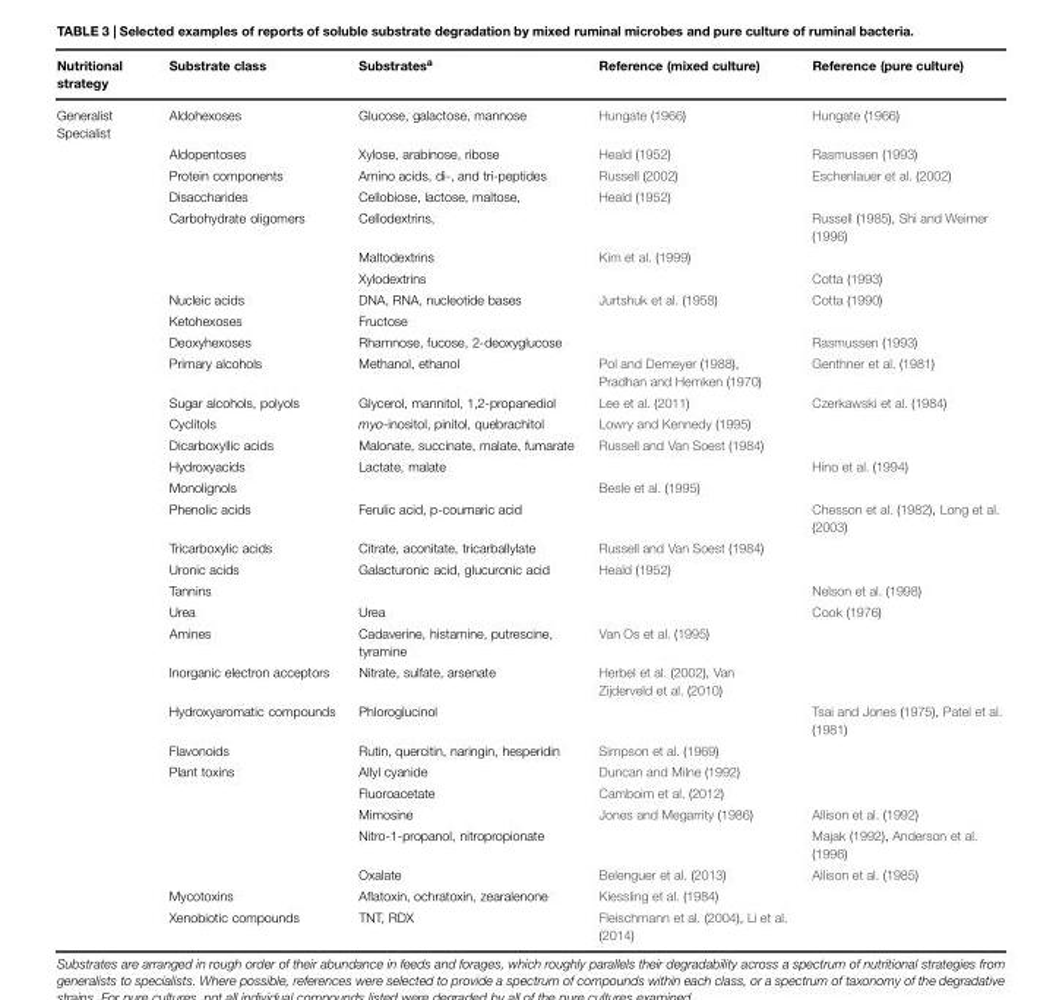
<table><thead><tr><td>Nutritional strategy</td><td>Substrate class</td><td>Substrates<sup>a</sup></td><td>Reference (mixed culture)</td><td>Reference (pure culture)</td></tr></thead><tbody><tr><td rowspan="32">Generalist Specialist</td><td>Aldohexoses</td><td>Glucose, galactose, mannose</td><td>Hungate (1966)</td><td>Hungate (1966)</td></tr><tr><td>Aldopentoses</td><td>Xylose, arabinose, ribose</td><td>Heald (1952)</td><td>Rasmussen (1993)</td></tr><tr><td>Protein components</td><td>Amino acids, di-, and tri-peptides</td><td>Russell (2002)</td><td>Eschenlauer et al. (2002)</td></tr><tr><td>Disaccharides</td><td>Cellobiose, lactose, maltose,</td><td>Heald (1952)</td><td></td></tr><tr><td>Carbohydrate oligomers</td><td>Cellodextrins,</td><td></td><td>Russell (1985), Shi and Weimer (1996)</td></tr><tr><td></td><td>Maltodextrins</td><td>Kim et al. (1999)</td><td></td></tr><tr><td></td><td>Xylodextrins</td><td></td><td>Cotta (1993)</td></tr><tr><td>Nucleic acids</td><td>DNA, RNA, nucleotide bases</td><td>Jurtshuk et al. (1958)</td><td>Cotta (1990)</td></tr><tr><td>Ketohexoses</td><td>Fructose</td><td></td><td></td></tr><tr><td>Deoxyhexoses</td><td>Rhamnose, fucose, 2-deoxyglucose</td><td></td><td>Rasmussen (1993)</td></tr><tr><td>Primary alcohols</td><td>Methanol, ethanol</td><td>Pol and Demeyer (1988), Pradhan and Hemken (1970)</td><td>Genthner et al. (1981)</td></tr><tr><td>Sugar alcohols, polyols</td><td>Glycerol, mannitol, 1,2-propanediol</td><td>Lee et al. (2011)</td><td>Czerkawski et al. (1984)</td></tr><tr><td>Cyclitols</td><td>myo-inositol, pinitol, quebrachitol</td><td>Lowry and Kennedy (1995)</td><td></td></tr><tr><td>Dicarboxyllic acids</td><td>Malonate, succinate, malate, fumarate</td><td>Russell and Van Soest (1984)</td><td></td></tr><tr><td>Hydroxyacids</td><td>Lactate, malate</td><td></td><td>Hino et al. (1994)</td></tr><tr><td>Monolignols</td><td></td><td>Besle et al. (1995)</td><td></td></tr><tr><td>Phenolic acids</td><td>Ferulic acid, p-coumaric acid</td><td></td><td>Chesson et al. (1982), Long et al. (2003)</td></tr><tr><td>Tricarboxylic acids</td><td>Citrate, aconitate, tricarballylate</td><td>Russell and Van Soest (1984)</td><td></td></tr><tr><td>Uronic acids</td><td>Galacturonic acid, glucuronic acid</td><td>Heald (1952)</td><td></td></tr><tr><td>Tannins</td><td></td><td></td><td>Nelson et al. (1998)</td></tr><tr><td>Urea</td><td>Urea</td><td></td><td>Cook (1976)</td></tr><tr><td>Amines</td><td>Cadaverine, histamine, putrescine, tyramine</td><td>Van Os et al. (1995)</td><td></td></tr><tr><td>Inorganic electron acceptors</td><td>Nitrate, sulfate, arsenate</td><td>Herbel et al. (2002), Van Zijderveld et al. (2010)</td><td></td></tr><tr><td>Hydroxyaromatic compounds</td><td>Phloroglucinol</td><td></td><td>Tsai and Jones (1975), Patel et al. (1981)</td></tr><tr><td>Flavonoids</td><td>Rutin, quercitin, naringin, hesperidin</td><td>Simpson et al. (1969)</td><td></td></tr><tr><td>Plant toxins</td><td>Allyl cyanide</td><td>Duncan and Milne (1992)</td><td></td></tr><tr><td></td><td>Fluoroacetate</td><td>Camboim et al. (2012)</td><td></td></tr><tr><td></td><td>Mimosine</td><td>Jones and Megarrity (1986)</td><td>Allison et al. (1992)</td></tr><tr><td></td><td>Nitro-1-propanol, nitropropionate</td><td></td><td>Majak (1992), Anderson et al. (1996)</td></tr><tr><td></td><td>Oxalate</td><td>Belenguer et al. (2013)</td><td>Allison et al. (1985)</td></tr><tr><td>Mycotoxins</td><td>Aflatoxin, ochratoxin, zearalenone</td><td>Kiessling et al. (1984)</td><td></td></tr><tr><td>Xenobiotic compounds</td><td>TNT, RDX</td><td>Fleischmann et al. (2004), Li et al. (2014)</td><td></td></tr></tbody></table>